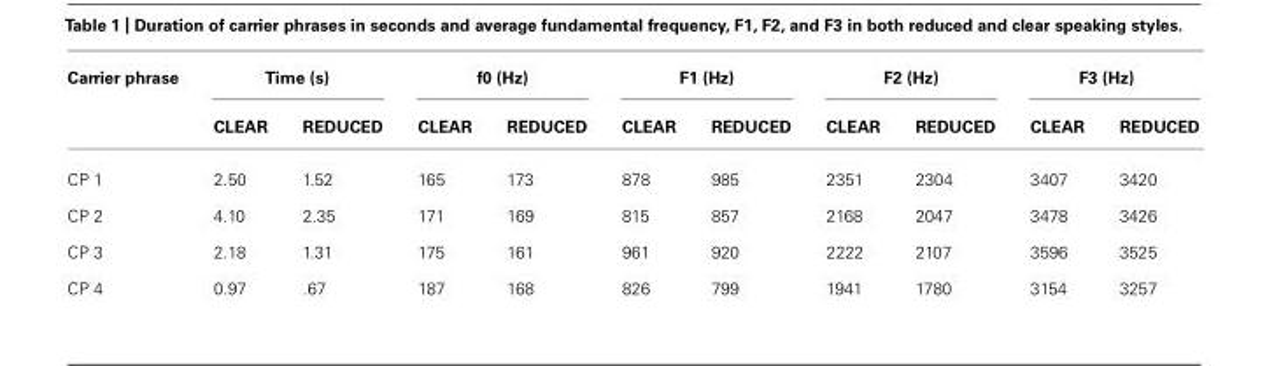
<table><thead><tr><td rowspan="2">Carrier phrase</td><td colspan="2">Time (s)</td><td colspan="2">f0 (Hz)</td><td colspan="2">F1 (Hz)</td><td colspan="2">F2 (Hz)</td><td colspan="2">F3 (Hz)</td></tr><tr><td>CLEAR</td><td>REDUCED</td><td>CLEAR</td><td>REDUCED</td><td>CLEAR</td><td>REDUCED</td><td>CLEAR</td><td>REDUCED</td><td>CLEAR</td><td>REDUCED</td></tr></thead><tbody><tr><td>CP 1</td><td>2.50</td><td>1.52</td><td>165</td><td>173</td><td>878</td><td>985</td><td>2351</td><td>2304</td><td>3407</td><td>3420</td></tr><tr><td>CP 2</td><td>4.10</td><td>2.35</td><td>171</td><td>169</td><td>815</td><td>857</td><td>2168</td><td>2047</td><td>3478</td><td>3426</td></tr><tr><td>CP 3</td><td>2.18</td><td>1.31</td><td>175</td><td>161</td><td>961</td><td>920</td><td>2222</td><td>2107</td><td>3596</td><td>3525</td></tr><tr><td>CP 4</td><td>0.97</td><td>.67</td><td>187</td><td>168</td><td>826</td><td>799</td><td>1941</td><td>1780</td><td>3154</td><td>3257</td></tr></tbody></table>